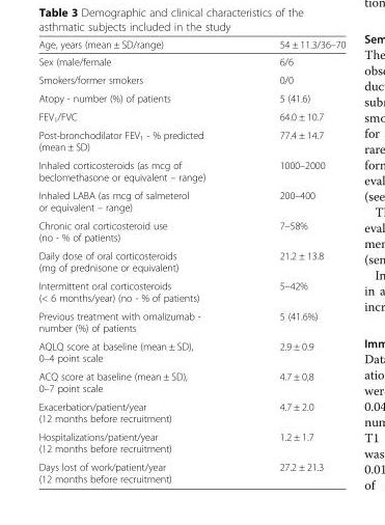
<table><thead><tr><td>Age, years (mean ± SD/range)</td><td>54 ± 11.3/36–70</td></tr></thead><tbody><tr><td>Sex (male/female</td><td>6/6</td></tr><tr><td>Smokers/former smokers</td><td>0/0</td></tr><tr><td>Atopy - number (%) of patients</td><td>5 (41.6)</td></tr><tr><td>FEV<sub>1</sub>/FVC</td><td>64.0 ± 10.7</td></tr><tr><td>Post-bronchodilator FEV<sub>1</sub> - % predicted (mean ± SD)</td><td>77.4 ± 14.7</td></tr><tr><td>Inhaled corticosteroids (as mcg of beclomethasone or equivalent – range)</td><td>1000–2000</td></tr><tr><td>Inhaled LABA (as mcg of salmeterol or equivalent – range)</td><td>200–400</td></tr><tr><td>Chronic oral corticosteroid use (no - % of patients)</td><td>7–58%</td></tr><tr><td>Daily dose of oral corticosteroids (mg of prednisone or equivalent)</td><td>21.2 ± 13.8</td></tr><tr><td>Intermittent oral corticosteroids (&lt; 6 months/year) (no - % of patients)</td><td>5–42%</td></tr><tr><td>Previous treatment with omalizumab - number (%) of patients</td><td>5 (41.6%)</td></tr><tr><td>AQLQ score at baseline (mean ± SD), 0–4 point scale</td><td>2.9 ± 0.9</td></tr><tr><td>ACQ score at baseline (mean ± SD), 0–7 point scale</td><td>4.7 ± 0,8</td></tr><tr><td>Exacerbation/patient/year (12 months before recruitment)</td><td>4.7 ± 2.0</td></tr><tr><td>Hospitalizations/patient/year (12 months before recruitment)</td><td>1.2 ± 1.7</td></tr><tr><td>Days lost of work/patient/year (12 months before recruitment)</td><td>27.2 ± 21.3</td></tr></tbody></table>